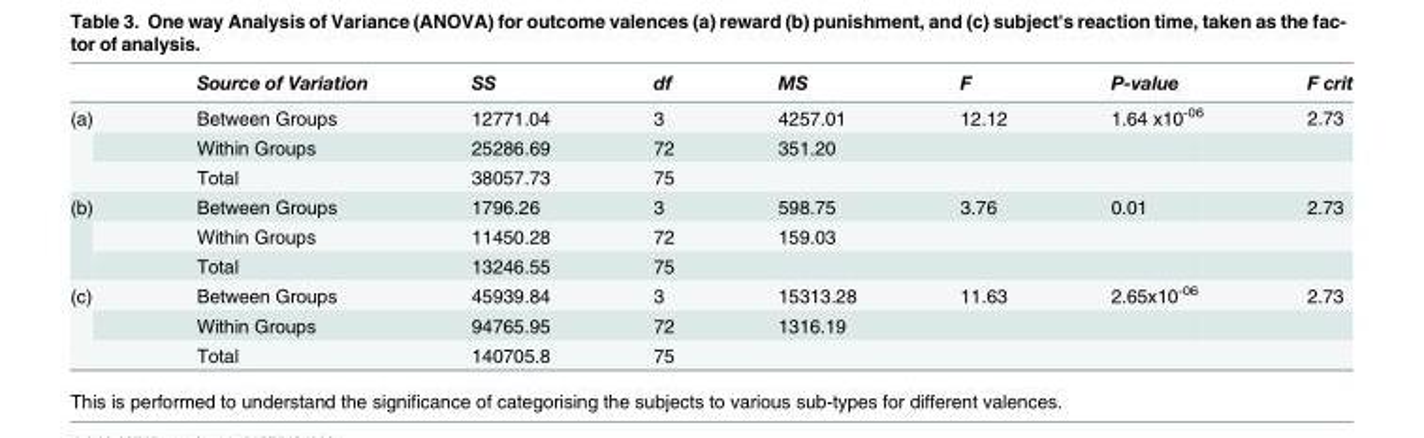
<table><thead><tr><td></td><td>Source of Variation</td><td>SS</td><td>df</td><td>MS</td><td>F</td><td>P-value</td><td>F crit</td></tr></thead><tbody><tr><td rowspan="3">(a)</td><td>Between Groups</td><td>12771.04</td><td>3</td><td>4257.01</td><td>12.12</td><td>1.64 x10<sup>-06</sup></td><td>2.73</td></tr><tr><td>Within Groups</td><td>25286.69</td><td>72</td><td>351.20</td><td></td><td></td><td></td></tr><tr><td>Total</td><td>38057.73</td><td>75</td><td></td><td></td><td></td><td></td></tr><tr><td rowspan="3">(b)</td><td>Between Groups</td><td>1796.26</td><td>3</td><td>598.75</td><td>3.76</td><td>0.01</td><td>2.73</td></tr><tr><td>Within Groups</td><td>11450.28</td><td>72</td><td>159.03</td><td></td><td></td><td></td></tr><tr><td>Total</td><td>13246.55</td><td>75</td><td></td><td></td><td></td><td></td></tr><tr><td rowspan="3">(c)</td><td>Between Groups</td><td>45939.84</td><td>3</td><td>15313.28</td><td>11.63</td><td>2.65x10<sup>-06</sup></td><td>2.73</td></tr><tr><td>Within Groups</td><td>94765.95</td><td>72</td><td>1316.19</td><td></td><td></td><td></td></tr><tr><td>Total</td><td>140705.8</td><td>75</td><td></td><td></td><td></td><td></td></tr></tbody></table>